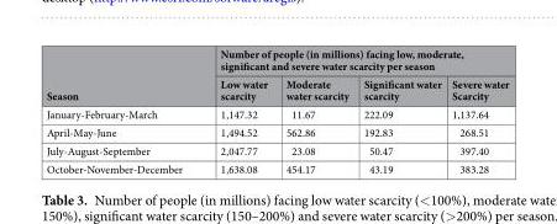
<table><thead><tr><td rowspan="2">Season</td><td colspan="4">Number of people (in millions) facing low, moderate, significant and severe water scarcity per season</td></tr><tr><td>Low water scarcity</td><td>Moderate water scarcity</td><td>Significant water scarcity</td><td>Severe water Scarcity</td></tr></thead><tbody><tr><td>January-February-March</td><td>1,147.32</td><td>11.67</td><td>222.09</td><td>1,137.64</td></tr><tr><td>April-May-June</td><td>1,494.52</td><td>562.86</td><td>192.83</td><td>268.51</td></tr><tr><td>July-August-September</td><td>2,047.77</td><td>23.08</td><td>50.47</td><td>397.40</td></tr><tr><td>October-November-December</td><td>1,638.08</td><td>454.17</td><td>43.19</td><td>383.28</td></tr></tbody></table>